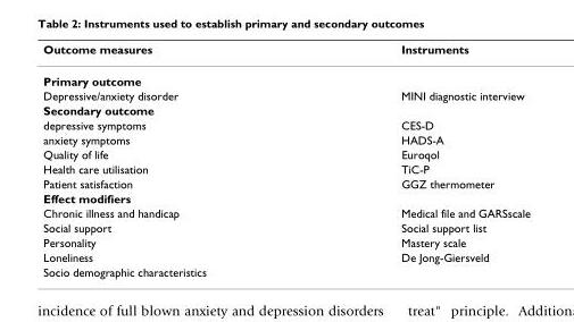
<table><thead><tr><td>Outcome measures</td><td>Instruments</td></tr></thead><tbody><tr><td colspan="2">Primary outcome</td></tr><tr><td>Depressive/anxiety disorder</td><td>MINI diagnostic interview</td></tr><tr><td colspan="2">Secondary outcome</td></tr><tr><td>depressive symptoms</td><td>CES-D</td></tr><tr><td>anxiety symptoms</td><td>HADS-A</td></tr><tr><td>Quality of life</td><td>Euroqol</td></tr><tr><td>Health care utilisation</td><td>TiC-P</td></tr><tr><td>Patient satisfaction</td><td>GGZ thermometer</td></tr><tr><td colspan="2">Effect modifiers</td></tr><tr><td>Chronic illness and handicap</td><td>Medical file and GARSscale</td></tr><tr><td>Social support</td><td>Social support list</td></tr><tr><td>Personality</td><td>Mastery scale</td></tr><tr><td>Loneliness</td><td>De Jong-Giersveld</td></tr><tr><td>Socio demographic characteristics</td><td></td></tr></tbody></table>